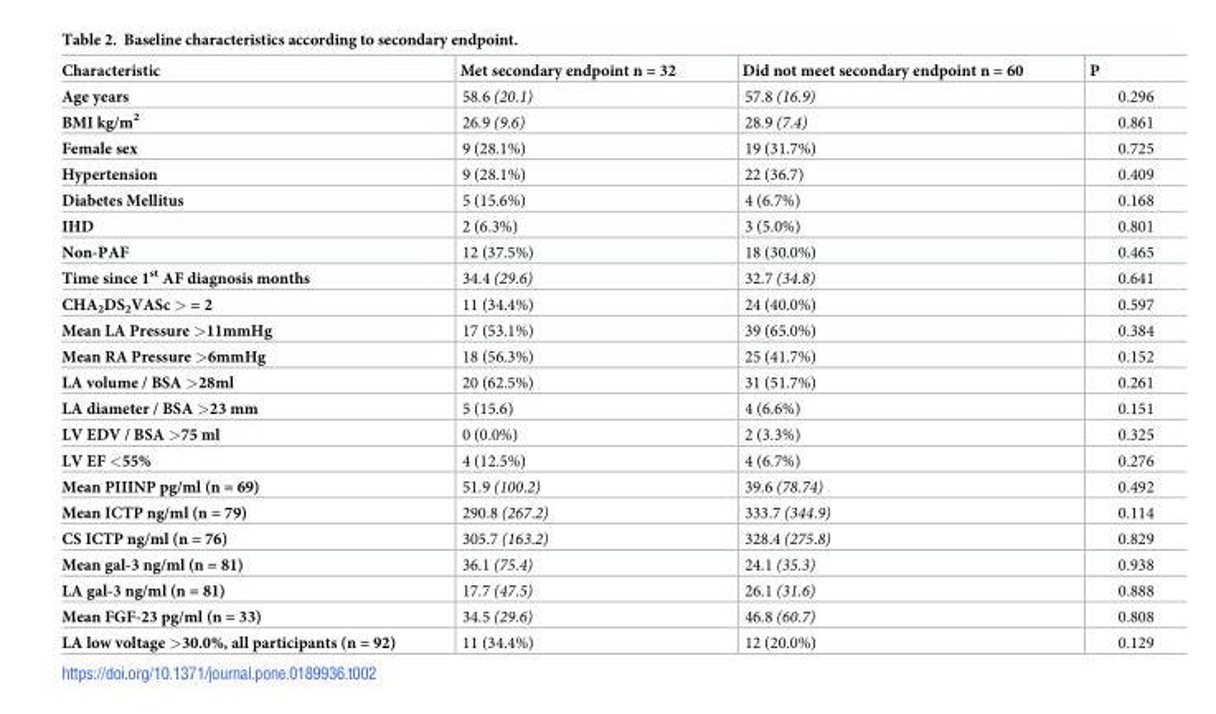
<table><thead><tr><td>Characteristic</td><td>Met secondary endpoint n = 32</td><td>Did not meet secondary endpoint n = 60</td><td>P</td></tr></thead><tbody><tr><td>Age years</td><td>58.6 (20.1)</td><td>57.8 (16.9)</td><td>0.296</td></tr><tr><td>BMI kg/m<sup>2</sup></td><td>26.9 (9.6)</td><td>28.9 (7.4)</td><td>0.861</td></tr><tr><td>Female sex</td><td>9 (28.1%)</td><td>19 (31.7%)</td><td>0.725</td></tr><tr><td>Hypertension</td><td>9 (28.1%)</td><td>22 (36.7)</td><td>0.409</td></tr><tr><td>Diabetes Mellitus</td><td>5 (15.6%)</td><td>4 (6.7%)</td><td>0.168</td></tr><tr><td>IHD</td><td>2 (6.3%)</td><td>3 (5.0%)</td><td>0.801</td></tr><tr><td>Non-PAF</td><td>12 (37.5%)</td><td>18 (30.0%)</td><td>0.465</td></tr><tr><td>Time since 1<sup>st</sup> AF diagnosis months</td><td>34.4 (29.6)</td><td>32.7 (34.8)</td><td>0.641</td></tr><tr><td>CHA<sub>2</sub>DS<sub>2</sub>VASc &gt; = 2</td><td>11 (34.4%)</td><td>24 (40.0%)</td><td>0.597</td></tr><tr><td>Mean LA Pressure &gt;11mmHg</td><td>17 (53.1%)</td><td>39 (65.0%)</td><td>0.384</td></tr><tr><td>Mean RA Pressure &gt;6mmHg</td><td>18 (56.3%)</td><td>25 (41.7%)</td><td>0.152</td></tr><tr><td>LA volume / BSA &gt;28ml</td><td>20 (62.5%)</td><td>31 (51.7%)</td><td>0.261</td></tr><tr><td>LA diameter / BSA &gt;23 mm</td><td>5 (15.6)</td><td>4 (6.6%)</td><td>0.151</td></tr><tr><td>LV EDV / BSA &gt;75 ml</td><td>0 (0.0%)</td><td>2 (3.3%)</td><td>0.325</td></tr><tr><td>LV EF &lt;55%</td><td>4 (12.5%)</td><td>4 (6.7%)</td><td>0.276</td></tr><tr><td>Mean PIIINP pg/ml (n = 69)</td><td>51.9 (100.2)</td><td>39.6 (78.74)</td><td>0.492</td></tr><tr><td>Mean ICTP ng/ml (n = 79)</td><td>290.8 (267.2)</td><td>333.7 (344.9)</td><td>0.114</td></tr><tr><td>CS ICTP ng/ml (n = 76)</td><td>305.7 (163.2)</td><td>328.4 (275.8)</td><td>0.829</td></tr><tr><td>Mean gal-3 ng/ml (n = 81)</td><td>36.1 (75.4)</td><td>24.1 (35.3)</td><td>0.938</td></tr><tr><td>LA gal-3 ng/ml (n = 81)</td><td>17.7 (47.5)</td><td>26.1 (31.6)</td><td>0.888</td></tr><tr><td>Mean FGF-23 pg/ml (n = 33)</td><td>34.5 (29.6)</td><td>46.8 (60.7)</td><td>0.808</td></tr><tr><td>LA low voltage &gt;30.0%, all participants (n = 92)</td><td>11 (34.4%)</td><td>12 (20.0%)</td><td>0.129</td></tr></tbody></table>